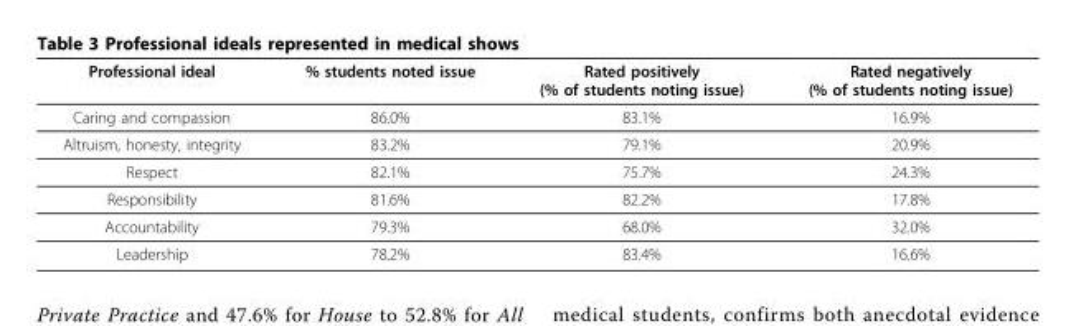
<table><thead><tr><td>Professional ideal</td><td>% students noted issue</td><td>Rated positively (% of students noting issue)</td><td>Rated negatively (% of students noting issue)</td></tr></thead><tbody><tr><td>Caring and compassion</td><td>86.0%</td><td>83.1%</td><td>16.9%</td></tr><tr><td>Altruism, honesty, integrity</td><td>83.2%</td><td>79.1%</td><td>20.9%</td></tr><tr><td>Respect</td><td>82.1%</td><td>75.7%</td><td>24.3%</td></tr><tr><td>Responsibility</td><td>81.6%</td><td>82.2%</td><td>17.8%</td></tr><tr><td>Accountability</td><td>79.3%</td><td>68.0%</td><td>32.0%</td></tr><tr><td>Leadership</td><td>78.2%</td><td>83.4%</td><td>16.6%</td></tr></tbody></table>